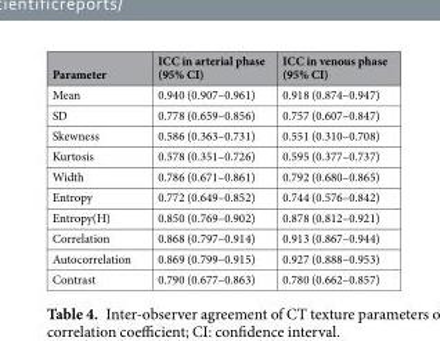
<table><thead><tr><td>Parameter</td><td>ICC in arterial phase (95% CI)</td><td>ICC in venous phase (95% CI)</td></tr></thead><tbody><tr><td>Mean</td><td>0.940 (0.907–0.961)</td><td>0.918 (0.874–0.947)</td></tr><tr><td>SD</td><td>0.778 (0.659–0.856)</td><td>0.757 (0.607–0.847)</td></tr><tr><td>Skewness</td><td>0.586 (0.363–0.731)</td><td>0.551 (0.310–0.708)</td></tr><tr><td>Kurtosis</td><td>0.578 (0.351–0.726)</td><td>0.595 (0.377–0.737)</td></tr><tr><td>Width</td><td>0.786 (0.671–0.861)</td><td>0.792 (0.680–0.865)</td></tr><tr><td>Entropy</td><td>0.772 (0.649–0.852)</td><td>0.744 (0.576–0.842)</td></tr><tr><td>Entropy(H)</td><td>0.850 (0.769–0.902)</td><td>0.878 (0.812–0.921)</td></tr><tr><td>Correlation</td><td>0.868 (0.797–0.914)</td><td>0.913 (0.867–0.944)</td></tr><tr><td>Autocorrelation</td><td>0.869 (0.799–0.915)</td><td>0.927 (0.888–0.953)</td></tr><tr><td>Contrast</td><td>0.790 (0.677–0.863)</td><td>0.780 (0.662–0.857)</td></tr></tbody></table>